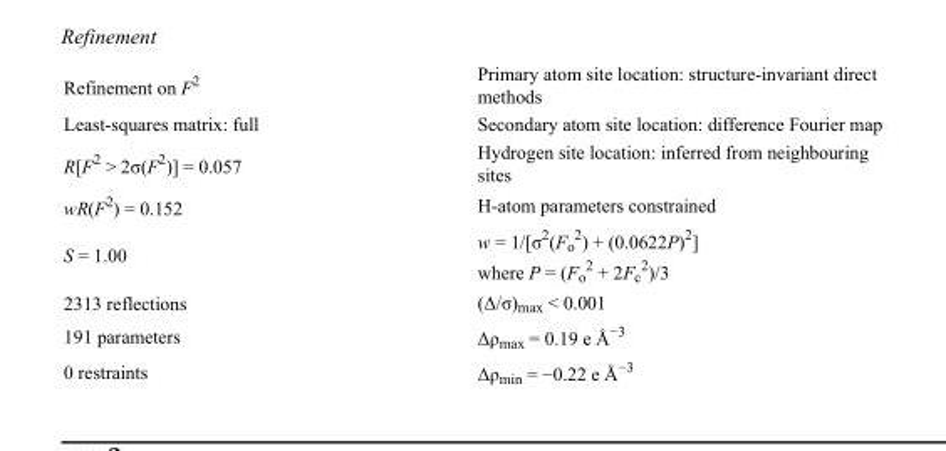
<table><tbody><tr><td>Refinement on F<sup>2</sup></td><td>Primary atom site location: structure-invariant direct methods</td></tr><tr><td>Least-squares matrix: full</td><td>Secondary atom site location: difference Fourier map</td></tr><tr><td>R[F<sup>2</sup> &gt; 2σ(F<sup>2</sup>)] = 0.057</td><td>Hydrogen site location: inferred from neighbouring sites</td></tr><tr><td>wR(F<sup>2</sup>) = 0.152</td><td>H-atom parameters constrained</td></tr><tr><td>S = 1.00</td><td>w = 1/[σ<sup>2</sup>(F<sub>o</sub> <sup>2</sup>) + (0.0622P)<sup>2</sup>] where P = (F<sub>o</sub> <sup>2</sup> + 2F<sub>c</sub> <sup>2</sup>)/3</td></tr><tr><td>2313 reflections</td><td>(Δ/σ)<sub>max</sub> &lt; 0.001</td></tr><tr><td>191 parameters</td><td>Δρ<sub>max</sub> = 0.19 e Å<sup>−3</sup></td></tr><tr><td>0 restraints</td><td>Δρ<sub>min</sub> = −0.22 e Å<sup>−3</sup></td></tr></tbody></table>